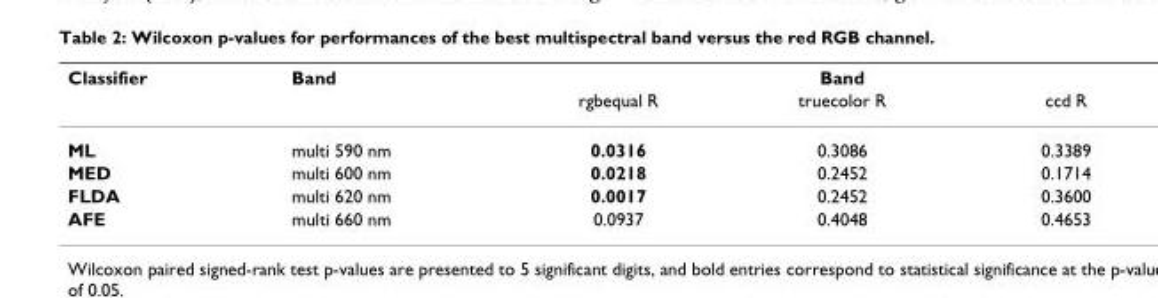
<table><thead><tr><td rowspan="2">Classifier</td><td rowspan="2">Band</td><td colspan="3">Band</td></tr><tr><td>rgbequal R</td><td>truecolor R</td><td>ccd R</td></tr></thead><tbody><tr><td>ML</td><td>multi 590 nm</td><td>0.0316</td><td>0.3086</td><td>0.3389</td></tr><tr><td>MED</td><td>multi 600 nm</td><td>0.0218</td><td>0.2452</td><td>0.1714</td></tr><tr><td>FLDA</td><td>multi 620 nm</td><td>0.0017</td><td>0.2452</td><td>0.3600</td></tr><tr><td>AFE</td><td>multi 660 nm</td><td>0.0937</td><td>0.4048</td><td>0.4653</td></tr></tbody></table>